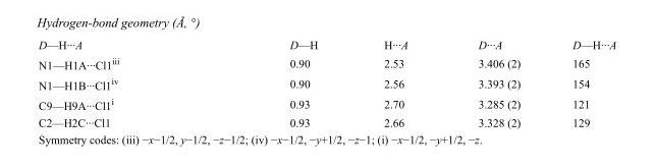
<table><tbody><tr><td>D—H···A</td><td>D—H</td><td>H···A</td><td>D···A</td><td>D—H···A</td></tr><tr><td>N1—H1A···Cl1<sup>iii</sup></td><td>0.90</td><td>2.53</td><td>3.406 (2)</td><td>165</td></tr><tr><td>N1—H1B···Cl1<sup>iv</sup></td><td>0.90</td><td>2.56</td><td>3.393 (2)</td><td>154</td></tr><tr><td>C9—H9A···Cl1<sup>i</sup></td><td>0.93</td><td>2.70</td><td>3.285 (2)</td><td>121</td></tr><tr><td>C2—H2C···Cl1</td><td>0.93</td><td>2.66</td><td>3.328 (2)</td><td>129</td></tr></tbody></table>